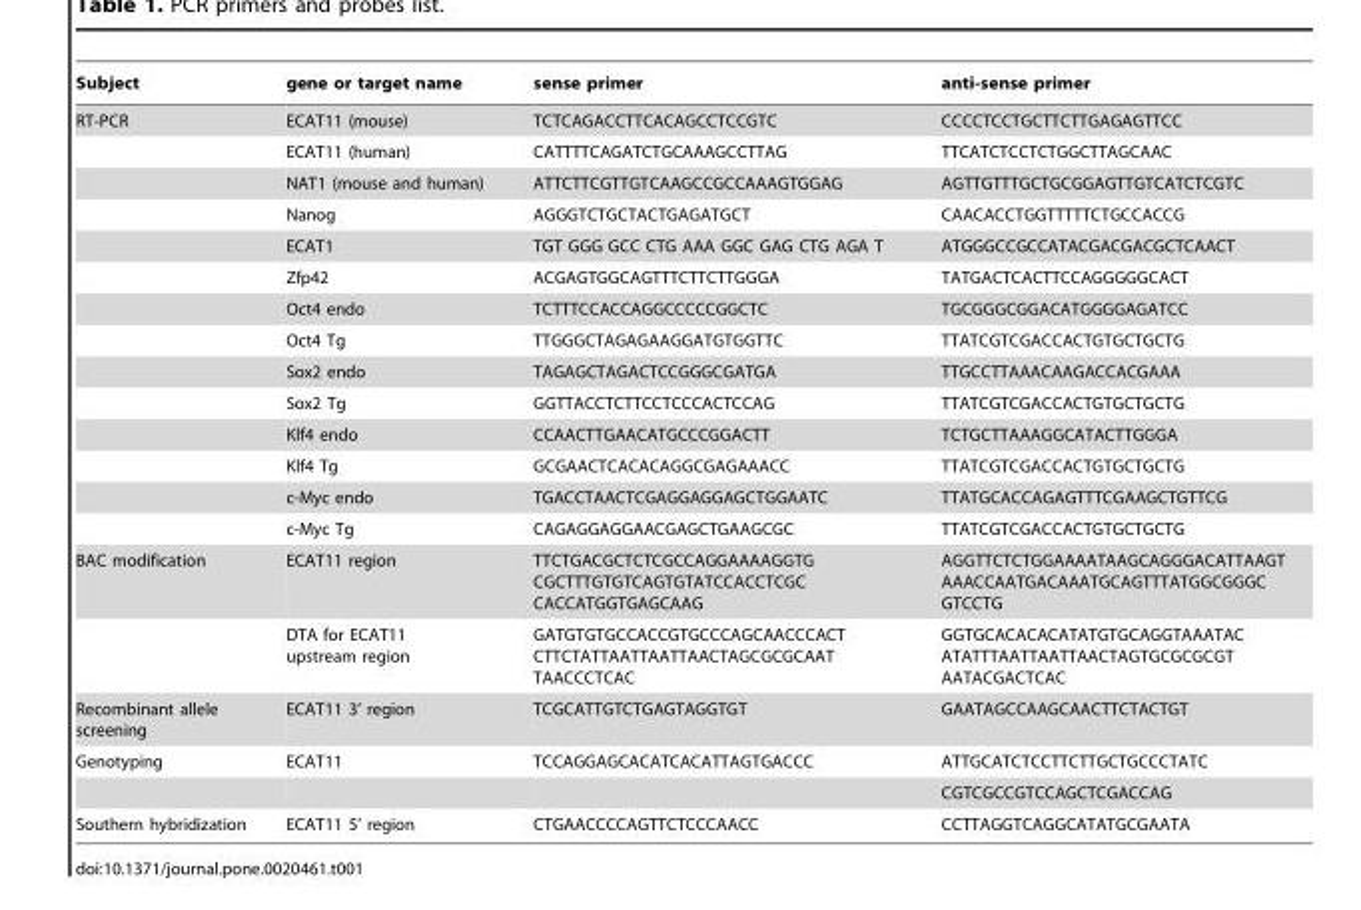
<table><thead><tr><td>Subject</td><td>gene or target name</td><td>sense primer</td><td>anti-sense primer</td></tr></thead><tbody><tr><td rowspan="14">RT-PCR</td><td>ECAT11 (mouse)</td><td>TCTCAGACCTTCACAGCCTCCGTC</td><td>CCCCTCCTGCTTCTTGAGAGTTCC</td></tr><tr><td>ECAT11 (human)</td><td>CATTTTCAGATCTGCAAAGCCTTAG</td><td>TTCATCTCCTCTGGCTTAGCAAC</td></tr><tr><td>NAT1 (mouse and human)</td><td>ATTCTTCGTTGTCAAGCCGCCAAAGTGGAG</td><td>AGTTGTTTGCTGCGGAGTTGTCATCTCGTC</td></tr><tr><td>Nanog</td><td>AGGGTCTGCTACTGAGATGCT</td><td>CAACACCTGGTTTTTCTGCCACCG</td></tr><tr><td>ECAT1</td><td>TGT GGG GCC CTG AAA GGC GAG CTG AGA T</td><td>ATGGGCCGCCATACGACGACGCTCAACT</td></tr><tr><td>Zfp42</td><td>ACGAGTGGCAGTTTCTTCTTGGGA</td><td>TATGACTCACTTCCAGGGGGCACT</td></tr><tr><td>Oct4 endo</td><td>TCTTTCCACCAGGCCCCCGGCTC</td><td>TGCGGGCGGACATGGGGAGATCC</td></tr><tr><td>Oct4 Tg</td><td>TTGGGCTAGAGAAGGATGTGGTTC</td><td>TTATCGTCGACCACTGTGCTGCTG</td></tr><tr><td>Sox2 endo</td><td>TAGAGCTAGACTCCGGGCGATGA</td><td>TTGCCTTAAACAAGACCACGAAA</td></tr><tr><td>Sox2 Tg</td><td>GGTTACCTCTTCCTCCCACTCCAG</td><td>TTATCGTCGACCACTGTGCTGCTG</td></tr><tr><td>Klf4 endo</td><td>CCAACTTGAACATGCCCGGACTT</td><td>TCTGCTTAAAGGCATACTTGGGA</td></tr><tr><td>Klf4 Tg</td><td>GCGAACTCACACAGGCGAGAAACC</td><td>TTATCGTCGACCACTGTGCTGCTG</td></tr><tr><td>c-Myc endo</td><td>TGACCTAACTCGAGGAGGAGCTGGAATC</td><td>TTATGCACCAGAGTTTCGAAGCTGTTCG</td></tr><tr><td>c-Myc Tg</td><td>CAGAGGAGGAACGAGCTGAAGCGC</td><td>TTATCGTCGACCACTGTGCTGCTG</td></tr><tr><td rowspan="2">BAC modification</td><td>ECAT11 region</td><td>TTCTGACGCTCTCGCCAGGAAAAGGTG CGCTTTGTGTCAGTGTATCCACCTCGC CACCATGGTGAGCAAG</td><td>AGGTTCTCTGGAAAATAAGCAGGGACATTAAGT AAACCAATGACAAATGCAGTTTATGGCGGGC GTCCTG</td></tr><tr><td>DTA for ECAT11 upstream region</td><td>GATGTGTGCCACCGTGCCCAGCAACCCACT CTTCTATTAATTAATTAACTAGCGCGCAAT TAACCCTCAC</td><td>GGTGCACACACATATGTGCAGGTAAATAC ATATTTAATTAATTAACTAGTGCGCGCGT AATACGACTCAC</td></tr><tr><td>Recombinant allele screening</td><td>ECAT11 3’ region</td><td>TCGCATTGTCTGAGTAGGTGT</td><td>GAATAGCCAAGCAACTTCTACTGT</td></tr><tr><td rowspan="2">Genotyping</td><td>ECAT11</td><td>TCCAGGAGCACATCACATTAGTGACCC</td><td>ATTGCATCTCCTTCTTGCTGCCCTATC</td></tr><tr><td></td><td></td><td>CGTCGCCGTCCAGCTCGACCAG</td></tr><tr><td>Southern hybridization</td><td>ECAT11 5’ region</td><td>CTGAACCCCAGTTCTCCCAACC</td><td>CCTTAGGTCAGGCATATGCGAATA</td></tr></tbody></table>